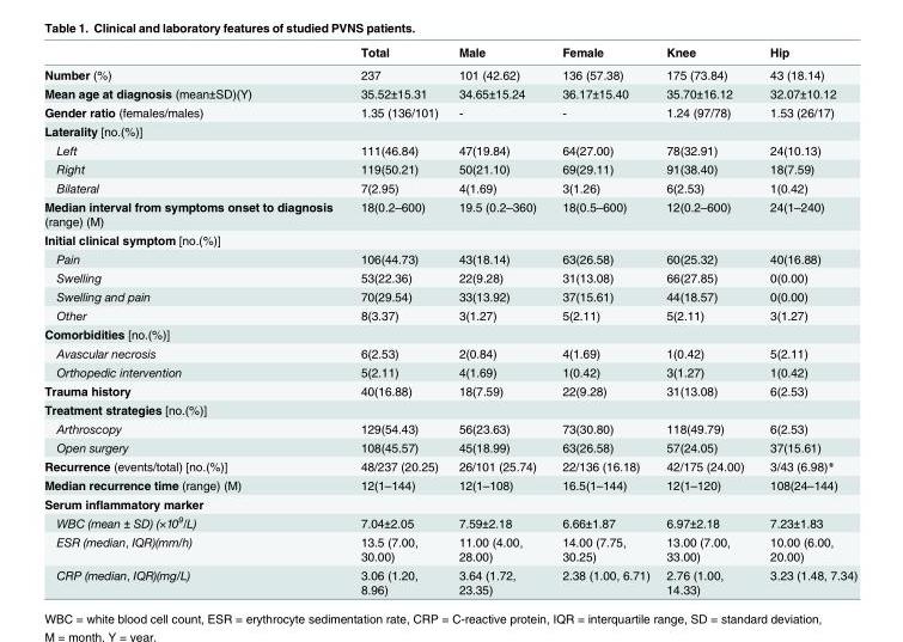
<table><thead><tr><td></td><td>Total</td><td>Male</td><td>Female</td><td>Knee</td><td>Hip</td></tr></thead><tbody><tr><td>Number (%)</td><td>237</td><td>101 (42.62)</td><td>136 (57.38)</td><td>175 (73.84)</td><td>43 (18.14)</td></tr><tr><td>Mean age at diagnosis (mean±SD)(Y)</td><td>35.52±15.31</td><td>34.65±15.24</td><td>36.17±15.40</td><td>35.70±16.12</td><td>32.07±10.12</td></tr><tr><td>Gender ratio (females/males)</td><td>1.35 (136/101)</td><td>-</td><td>-</td><td>1.24 (97/78)</td><td>1.53 (26/17)</td></tr><tr><td colspan="6">Laterality [no.(%)]</td></tr><tr><td>Left</td><td>111(46.84)</td><td>47(19.84)</td><td>64(27.00)</td><td>78(32.91)</td><td>24(10.13)</td></tr><tr><td>Right</td><td>119(50.21)</td><td>50(21.10)</td><td>69(29.11)</td><td>91(38.40)</td><td>18(7.59)</td></tr><tr><td>Bilateral</td><td>7(2.95)</td><td>4(1.69)</td><td>3(1.26)</td><td>6(2.53)</td><td>1(0.42)</td></tr><tr><td>Median interval from symptoms onset to diagnosis (range) (M)</td><td>18(0.2–600)</td><td>19.5 (0.2–360)</td><td>18(0.5–600)</td><td>12(0.2–600)</td><td>24(1–240)</td></tr><tr><td colspan="6">Initial clinical symptom [no.(%)]</td></tr><tr><td>Pain</td><td>106(44.73)</td><td>43(18.14)</td><td>63(26.58)</td><td>60(25.32)</td><td>40(16.88)</td></tr><tr><td>Swelling</td><td>53(22.36)</td><td>22(9.28)</td><td>31(13.08)</td><td>66(27.85)</td><td>0(0.00)</td></tr><tr><td>Swelling and pain</td><td>70(29.54)</td><td>33(13.92)</td><td>37(15.61)</td><td>44(18.57)</td><td>0(0.00)</td></tr><tr><td>Other</td><td>8(3.37)</td><td>3(1.27)</td><td>5(2.11)</td><td>5(2.11)</td><td>3(1.27)</td></tr><tr><td colspan="6">Comorbidities [no.(%)]</td></tr><tr><td>Avascular necrosis</td><td>6(2.53)</td><td>2(0.84)</td><td>4(1.69)</td><td>1(0.42)</td><td>5(2.11)</td></tr><tr><td>Orthopedic intervention</td><td>5(2.11)</td><td>4(1.69)</td><td>1(0.42)</td><td>3(1.27)</td><td>1(0.42)</td></tr><tr><td>Trauma history</td><td>40(16.88)</td><td>18(7.59)</td><td>22(9.28)</td><td>31(13.08)</td><td>6(2.53)</td></tr><tr><td colspan="6">Treatment strategies [no.(%)]</td></tr><tr><td>Arthroscopy</td><td>129(54.43)</td><td>56(23.63)</td><td>73(30.80)</td><td>118(49.79)</td><td>6(2.53)</td></tr><tr><td>Open surgery</td><td>108(45.57)</td><td>45(18.99)</td><td>63(26.58)</td><td>57(24.05)</td><td>37(15.61)</td></tr><tr><td>Recurrence (events/total) [no.(%)]</td><td>48/237 (20.25)</td><td>26/101 (25.74)</td><td>22/136 (16.18)</td><td>42/175 (24.00)</td><td>3/43 (6.98)*</td></tr><tr><td>Median recurrence time (range) (M)</td><td>12(1–144)</td><td>12(1–108)</td><td>16.5(1–144)</td><td>12(1–120)</td><td>108(24–144)</td></tr><tr><td colspan="6">Serum inflammatory marker</td></tr><tr><td>WBC (mean ± SD) (×10<sup>9</sup>/L)</td><td>7.04±2.05</td><td>7.59±2.18</td><td>6.66±1.87</td><td>6.97±2.18</td><td>7.23±1.83</td></tr><tr><td>ESR (median, IQR)(mm/h)</td><td>13.5 (7.00, 30.00)</td><td>11.00 (4.00, 28.00)</td><td>14.00 (7.75, 30.25)</td><td>13.00 (7.00, 33.00)</td><td>10.00 (6.00, 20.00)</td></tr><tr><td>CRP (median, IQR)(mg/L)</td><td>3.06 (1.20, 8.96)</td><td>3.64 (1.72, 23.35)</td><td>2.38 (1.00, 6.71)</td><td>2.76 (1.00, 14.33)</td><td>3.23 (1.48, 7.34)</td></tr></tbody></table>